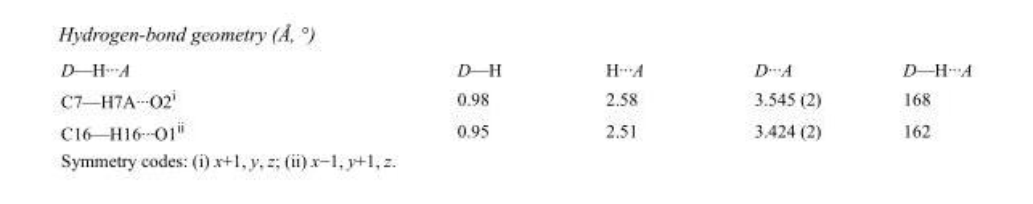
<table><tbody><tr><td>D—H···A</td><td>D—H</td><td>H···A</td><td>D···A</td><td>D—H···A</td></tr><tr><td>C7—H7A···O2<sup>i</sup></td><td>0.98</td><td>2.58</td><td>3.545 (2)</td><td>168</td></tr><tr><td>C16—H16···O1<sup>ii</sup></td><td>0.95</td><td>2.51</td><td>3.424 (2)</td><td>162</td></tr></tbody></table>